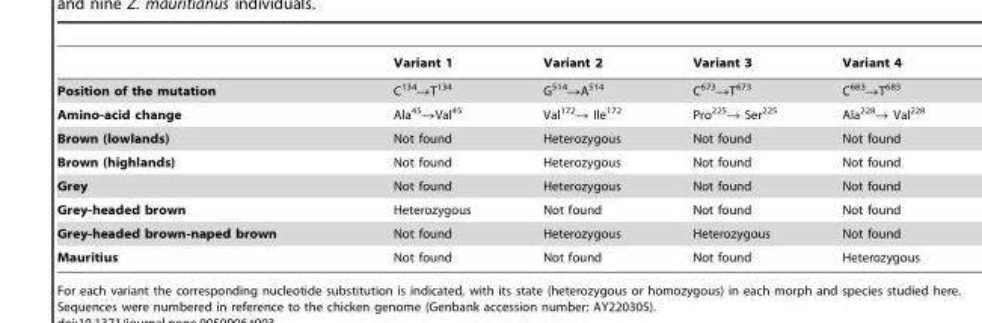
<table><thead><tr><td></td><td>Variant 1</td><td>Variant 2</td><td>Variant 3</td><td>Variant 4</td></tr></thead><tbody><tr><td>Position of the mutation</td><td>C<sup>134</sup>→T<sup>134</sup></td><td>G<sup>514</sup>→A<sup>514</sup></td><td>C<sup>673</sup>→T<sup>673</sup></td><td>C<sup>683</sup>→T<sup>683</sup></td></tr><tr><td>Amino-acid change</td><td>Ala<sup>45</sup>→Val<sup>45</sup></td><td>Val<sup>172</sup>→ Ile<sup>172</sup></td><td>Pro<sup>225</sup>→ Ser<sup>225</sup></td><td>Ala<sup>228</sup>→ Val<sup>228</sup></td></tr><tr><td>Brown (lowlands)</td><td>Not found</td><td>Heterozygous</td><td>Not found</td><td>Not found</td></tr><tr><td>Brown (highlands)</td><td>Not found</td><td>Heterozygous</td><td>Not found</td><td>Not found</td></tr><tr><td>Grey</td><td>Not found</td><td>Heterozygous</td><td>Not found</td><td>Not found</td></tr><tr><td>Grey-headed brown</td><td>Heterozygous</td><td>Not found</td><td>Not found</td><td>Not found</td></tr><tr><td>Grey-headed brown-naped brown</td><td>Not found</td><td>Heterozygous</td><td>Heterozygous</td><td>Not found</td></tr><tr><td>Mauritius</td><td>Not found</td><td>Not found</td><td>Not found</td><td>Heterozygous</td></tr></tbody></table>